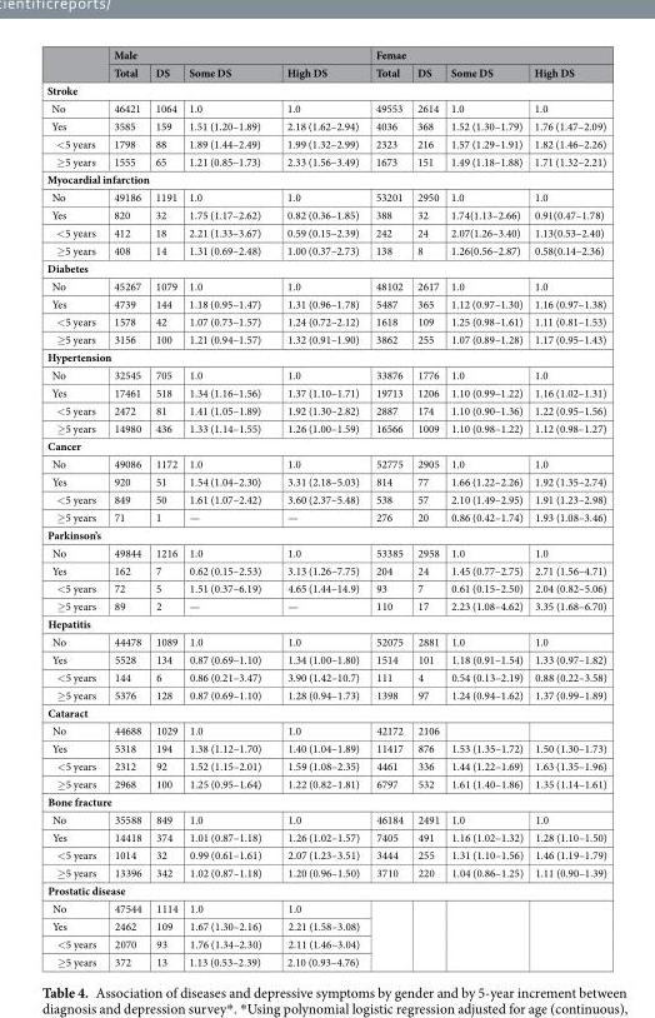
<table><thead><tr><td rowspan="2"></td><td colspan="4">Male</td><td colspan="4">Femae</td></tr><tr><td>Total</td><td>DS</td><td>Some DS</td><td>High DS</td><td>Total</td><td>DS</td><td>Some DS</td><td>High DS</td></tr></thead><tbody><tr><td colspan="9">Stroke</td></tr><tr><td>No</td><td>46421</td><td>1064</td><td>1.0</td><td>1.0</td><td>49553</td><td>2614</td><td>1.0</td><td>1.0</td></tr><tr><td>Yes</td><td>3585</td><td>159</td><td>1.51 (1.20–1.89)</td><td>2.18 (1.62–2.94)</td><td>4036</td><td>368</td><td>1.52 (1.30–1.79)</td><td>1.76 (1.47–2.09)</td></tr><tr><td>&lt;5 years</td><td>1798</td><td>88</td><td>1.89 (1.44–2.49)</td><td>1.99 (1.32–2.99)</td><td>2323</td><td>216</td><td>1.57 (1.29–1.91)</td><td>1.82 (1.46–2.26)</td></tr><tr><td>≥5 years</td><td>1555</td><td>65</td><td>1.21 (0.85–1.73)</td><td>2.33 (1.56–3.49)</td><td>1673</td><td>151</td><td>1.49 (1.18–1.88)</td><td>1.71 (1.32–2.21)</td></tr><tr><td colspan="9">Myocardial infarction</td></tr><tr><td>No</td><td>49186</td><td>1191</td><td>1.0</td><td>1.0</td><td>53201</td><td>2950</td><td>1.0</td><td>1.0</td></tr><tr><td>Yes</td><td>820</td><td>32</td><td>1.75 (1.17–2.62)</td><td>0.82 (0.36–1.85)</td><td>388</td><td>32</td><td>1.74(1.13–2.66)</td><td>0.91(0.47–1.78)</td></tr><tr><td>&lt;5 years</td><td>412</td><td>18</td><td>2.21 (1.33–3.67)</td><td>0.59 (0.15–2.39)</td><td>242</td><td>24</td><td>2.07(1.26–3.40)</td><td>1.13(0.53–2.40)</td></tr><tr><td>≥5 years</td><td>408</td><td>14</td><td>1.31 (0.69–2.48)</td><td>1.00 (0.37–2.73)</td><td>138</td><td>8</td><td>1.26(0.56–2.87)</td><td>0.58(0.14–2.36)</td></tr><tr><td colspan="9">Diabetes</td></tr><tr><td>No</td><td>45267</td><td>1079</td><td>1.0</td><td>1.0</td><td>48102</td><td>2617</td><td>1.0</td><td>1.0</td></tr><tr><td>Yes</td><td>4739</td><td>144</td><td>1.18 (0.95–1.47)</td><td>1.31 (0.96–1.78)</td><td>5487</td><td>365</td><td>1.12 (0.97–1.30)</td><td>1.16 (0.97–1.38)</td></tr><tr><td>&lt;5 years</td><td>1578</td><td>42</td><td>1.07 (0.73–1.57)</td><td>1.24 (0.72–2.12)</td><td>1618</td><td>109</td><td>1.25 (0.98–1.61)</td><td>1.11 (0.81–1.53)</td></tr><tr><td>≥5 years</td><td>3156</td><td>100</td><td>1.21 (0.94–1.57)</td><td>1.32 (0.91–1.90)</td><td>3862</td><td>255</td><td>1.07 (0.89–1.28)</td><td>1.17 (0.95–1.43)</td></tr><tr><td colspan="9">Hypertension</td></tr><tr><td>No</td><td>32545</td><td>705</td><td>1.0</td><td>1.0</td><td>33876</td><td>1776</td><td>1.0</td><td>1.0</td></tr><tr><td>Yes</td><td>17461</td><td>518</td><td>1.34 (1.16–1.56)</td><td>1.37 (1.10–1.71)</td><td>19713</td><td>1206</td><td>1.10 (0.99–1.22)</td><td>1.16 (1.02–1.31)</td></tr><tr><td>&lt;5 years</td><td>2472</td><td>81</td><td>1.41 (1.05–1.89)</td><td>1.92 (1.30–2.82)</td><td>2887</td><td>174</td><td>1.10 (0.90–1.36)</td><td>1.22 (0.95–1.56)</td></tr><tr><td>≥5 years</td><td>14980</td><td>436</td><td>1.33 (1.14–1.55)</td><td>1.26 (1.00–1.59)</td><td>16566</td><td>1009</td><td>1.10 (0.98–1.22)</td><td>1.12 (0.98–1.27)</td></tr><tr><td colspan="9">Cancer</td></tr><tr><td>No</td><td>49086</td><td>1172</td><td>1.0</td><td>1.0</td><td>52775</td><td>2905</td><td>1.0</td><td>1.0</td></tr><tr><td>Yes</td><td>920</td><td>51</td><td>1.54 (1.04–2.30)</td><td>3.31 (2.18–5.03)</td><td>814</td><td>77</td><td>1.66 (1.22–2.26)</td><td>1.92 (1.35–2.74)</td></tr><tr><td>&lt;5 years</td><td>849</td><td>50</td><td>1.61 (1.07–2.42)</td><td>3.60 (2.37–5.48)</td><td>538</td><td>57</td><td>2.10 (1.49–2.95)</td><td>1.91 (1.23–2.98)</td></tr><tr><td>≥5 years</td><td>71</td><td>1</td><td>—</td><td>—</td><td>276</td><td>20</td><td>0.86 (0.42–1.74)</td><td>1.93 (1.08–3.46)</td></tr><tr><td colspan="9">Parkinson’s</td></tr><tr><td>No</td><td>49844</td><td>1216</td><td>1.0</td><td>1.0</td><td>53385</td><td>2958</td><td>1.0</td><td>1.0</td></tr><tr><td>Yes</td><td>162</td><td>7</td><td>0.62 (0.15–2.53)</td><td>3.13 (1.26–7.75)</td><td>204</td><td>24</td><td>1.45 (0.77–2.75)</td><td>2.71 (1.56–4.71)</td></tr><tr><td>&lt;5 years</td><td>72</td><td>5</td><td>1.51 (0.37–6.19)</td><td>4.65 (1.44–14.9)</td><td>93</td><td>7</td><td>0.61 (0.15–2.50)</td><td>2.04 (0.82–5.06)</td></tr><tr><td>≥5 years</td><td>89</td><td>2</td><td>—</td><td>—</td><td>110</td><td>17</td><td>2.23 (1.08–4.62)</td><td>3.35 (1.68–6.70)</td></tr><tr><td colspan="9">Hepatitis</td></tr><tr><td>No</td><td>44478</td><td>1089</td><td>1.0</td><td>1.0</td><td>52075</td><td>2881</td><td>1.0</td><td>1.0</td></tr><tr><td>Yes</td><td>5528</td><td>134</td><td>0.87 (0.69–1.10)</td><td>1.34 (1.00–1.80)</td><td>1514</td><td>101</td><td>1.18 (0.91–1.54)</td><td>1.33 (0.97–1.82)</td></tr><tr><td>&lt;5 years</td><td>144</td><td>6</td><td>0.86 (0.21–3.47)</td><td>3.90 (1.42–10.7)</td><td>111</td><td>4</td><td>0.54 (0.13–2.19)</td><td>0.88 (0.22–3.58)</td></tr><tr><td>≥5 years</td><td>5376</td><td>128</td><td>0.87 (0.69–1.10)</td><td>1.28 (0.94–1.73)</td><td>1398</td><td>97</td><td>1.24 (0.94–1.62)</td><td>1.37 (0.99–1.89)</td></tr><tr><td colspan="9">Cataract</td></tr><tr><td>No</td><td>44688</td><td>1029</td><td>1.0</td><td>1.0</td><td>42172</td><td>2106</td><td></td><td></td></tr><tr><td>Yes</td><td>5318</td><td>194</td><td>1.38 (1.12–1.70)</td><td>1.40 (1.04–1.89)</td><td>11417</td><td>876</td><td>1.53 (1.35–1.72)</td><td>1.50 (1.30–1.73)</td></tr><tr><td>&lt;5 years</td><td>2312</td><td>92</td><td>1.52 (1.15–2.01)</td><td>1.59 (1.08–2.35)</td><td>4461</td><td>336</td><td>1.44 (1.22–1.69)</td><td>1.63 (1.35–1.96)</td></tr><tr><td>≥5 years</td><td>2968</td><td>100</td><td>1.25 (0.95–1.64)</td><td>1.22 (0.82–1.81)</td><td>6797</td><td>532</td><td>1.61 (1.40–1.86)</td><td>1.35 (1.14–1.61)</td></tr><tr><td colspan="9">Bone fracture</td></tr><tr><td>No</td><td>35588</td><td>849</td><td>1.0</td><td>1.0</td><td>46184</td><td>2491</td><td>1.0</td><td>1.0</td></tr><tr><td>Yes</td><td>14418</td><td>374</td><td>1.01 (0.87–1.18)</td><td>1.26 (1.02–1.57)</td><td>7405</td><td>491</td><td>1.16 (1.02–1.32)</td><td>1.28 (1.10–1.50)</td></tr><tr><td>&lt;5 years</td><td>1014</td><td>32</td><td>0.99 (0.61–1.61)</td><td>2.07 (1.23–3.51)</td><td>3444</td><td>255</td><td>1.31 (1.10–1.56)</td><td>1.46 (1.19–1.79)</td></tr><tr><td>≥5 years</td><td>13396</td><td>342</td><td>1.02 (0.87–1.18)</td><td>1.20 (0.96–1.50)</td><td>3710</td><td>220</td><td>1.04 (0.86–1.25)</td><td>1.11 (0.90–1.39)</td></tr><tr><td colspan="9">Prostatic disease</td></tr><tr><td>No</td><td>47544</td><td>1114</td><td>1.0</td><td>1.0</td><td rowspan="4"></td><td rowspan="4"></td><td rowspan="4"></td><td rowspan="4"></td></tr><tr><td>Yes</td><td>2462</td><td>109</td><td>1.67 (1.30–2.16)</td><td>2.21 (1.58–3.08)</td></tr><tr><td>&lt;5 years</td><td>2070</td><td>93</td><td>1.76 (1.34–2.30)</td><td>2.11 (1.46–3.04)</td></tr><tr><td>≥5 years</td><td>372</td><td>13</td><td>1.13 (0.53–2.39)</td><td>2.10 (0.93–4.76)</td></tr></tbody></table>